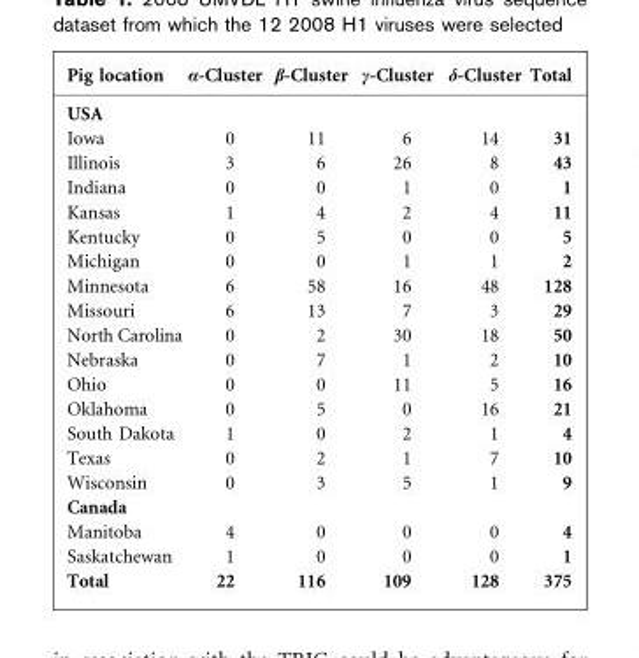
<table><thead><tr><td>Pig location</td><td>α-Cluster</td><td>β-Cluster</td><td>γ-Cluster</td><td>δ-Cluster</td><td>Total</td></tr></thead><tbody><tr><td colspan="6">USA</td></tr><tr><td>Iowa</td><td>0</td><td>11</td><td>6</td><td>14</td><td>31</td></tr><tr><td>Illinois</td><td>3</td><td>6</td><td>26</td><td>8</td><td>43</td></tr><tr><td>Indiana</td><td>0</td><td>0</td><td>1</td><td>0</td><td>1</td></tr><tr><td>Kansas</td><td>1</td><td>4</td><td>2</td><td>4</td><td>11</td></tr><tr><td>Kentucky</td><td>0</td><td>5</td><td>0</td><td>0</td><td>5</td></tr><tr><td>Michigan</td><td>0</td><td>0</td><td>1</td><td>1</td><td>2</td></tr><tr><td>Minnesota</td><td>6</td><td>58</td><td>16</td><td>48</td><td>128</td></tr><tr><td>Missouri</td><td>6</td><td>13</td><td>7</td><td>3</td><td>29</td></tr><tr><td>North Carolina</td><td>0</td><td>2</td><td>30</td><td>18</td><td>50</td></tr><tr><td>Nebraska</td><td>0</td><td>7</td><td>1</td><td>2</td><td>10</td></tr><tr><td>Ohio</td><td>0</td><td>0</td><td>11</td><td>5</td><td>16</td></tr><tr><td>Oklahoma</td><td>0</td><td>5</td><td>0</td><td>16</td><td>21</td></tr><tr><td>South Dakota</td><td>1</td><td>0</td><td>2</td><td>1</td><td>4</td></tr><tr><td>Texas</td><td>0</td><td>2</td><td>1</td><td>7</td><td>10</td></tr><tr><td>Wisconsin</td><td>0</td><td>3</td><td>5</td><td>1</td><td>9</td></tr><tr><td colspan="6">Canada</td></tr><tr><td>Manitoba</td><td>4</td><td>0</td><td>0</td><td>0</td><td>4</td></tr><tr><td>Saskatchewan</td><td>1</td><td>0</td><td>0</td><td>0</td><td>1</td></tr><tr><td>Total</td><td>22</td><td>116</td><td>109</td><td>128</td><td>375</td></tr></tbody></table>